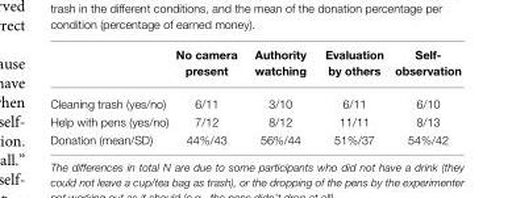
<table><thead><tr><td></td><td>No camera present</td><td>Authority watching</td><td>Evaluation by others</td><td>Self- observation</td></tr></thead><tbody><tr><td>Cleaning trash (yes/no)</td><td>6/11</td><td>3/10</td><td>6/11</td><td>6/10</td></tr><tr><td>Help with pens (yes/no)</td><td>7/12</td><td>8/12</td><td>11/11</td><td>8/13</td></tr><tr><td>Donation (mean/SD)</td><td>44%/43</td><td>56%/44</td><td>51%/37</td><td>54%/42</td></tr></tbody></table>